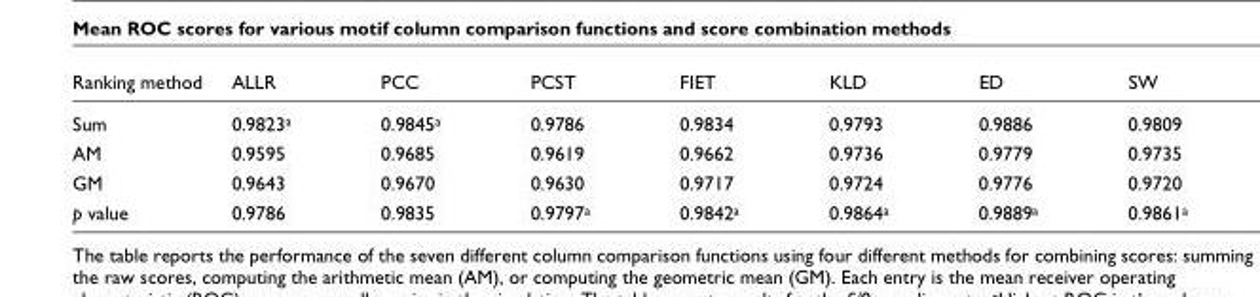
<table><thead><tr><td>Ranking method</td><td>ALLR</td><td>PCC</td><td>PCST</td><td>FIET</td><td>KLD</td><td>ED</td><td>SW</td></tr></thead><tbody><tr><td>Sum</td><td>0.9823a</td><td>0.9845a</td><td>0.9786</td><td>0.9834</td><td>0.9793</td><td>0.9886</td><td>0.9809</td></tr><tr><td>AM</td><td>0.9595</td><td>0.9685</td><td>0.9619</td><td>0.9662</td><td>0.9736</td><td>0.9779</td><td>0.9735</td></tr><tr><td>GM</td><td>0.9643</td><td>0.9670</td><td>0.9630</td><td>0.9717</td><td>0.9724</td><td>0.9776</td><td>0.9720</td></tr><tr><td>p value</td><td>0.9786</td><td>0.9835</td><td>0.9797a</td><td>0.9842a</td><td>0.9864a</td><td>0.9889a</td><td>0.9861a</td></tr></tbody></table>